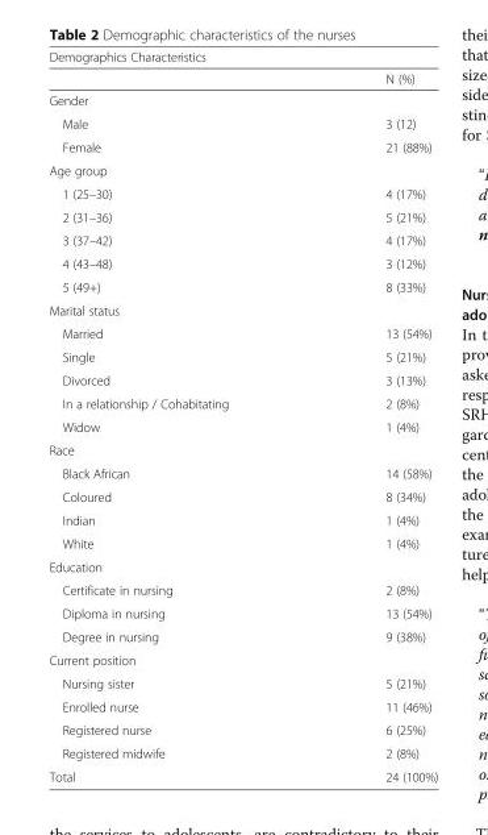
<table><thead><tr><td colspan="2">Demographics Characteristics</td></tr><tr><td></td><td>N (%)</td></tr></thead><tbody><tr><td colspan="2">Gender</td></tr><tr><td>Male</td><td>3 (12)</td></tr><tr><td>Female</td><td>21 (88%)</td></tr><tr><td colspan="2">Age group</td></tr><tr><td>1 (25–30)</td><td>4 (17%)</td></tr><tr><td>2 (31–36)</td><td>5 (21%)</td></tr><tr><td>3 (37–42)</td><td>4 (17%)</td></tr><tr><td>4 (43–48)</td><td>3 (12%)</td></tr><tr><td>5 (49+)</td><td>8 (33%)</td></tr><tr><td colspan="2">Marital status</td></tr><tr><td>Married</td><td>13 (54%)</td></tr><tr><td>Single</td><td>5 (21%)</td></tr><tr><td>Divorced</td><td>3 (13%)</td></tr><tr><td>In a relationship / Cohabitating</td><td>2 (8%)</td></tr><tr><td>Widow</td><td>1 (4%)</td></tr><tr><td colspan="2">Race</td></tr><tr><td>Black African</td><td>14 (58%)</td></tr><tr><td>Coloured</td><td>8 (34%)</td></tr><tr><td>Indian</td><td>1 (4%)</td></tr><tr><td>White</td><td>1 (4%)</td></tr><tr><td colspan="2">Education</td></tr><tr><td>Certificate in nursing</td><td>2 (8%)</td></tr><tr><td>Diploma in nursing</td><td>13 (54%)</td></tr><tr><td>Degree in nursing</td><td>9 (38%)</td></tr><tr><td colspan="2">Current position</td></tr><tr><td>Nursing sister</td><td>5 (21%)</td></tr><tr><td>Enrolled nurse</td><td>11 (46%)</td></tr><tr><td>Registered nurse</td><td>6 (25%)</td></tr><tr><td>Registered midwife</td><td>2 (8%)</td></tr><tr><td>Total</td><td>24 (100%)</td></tr></tbody></table>